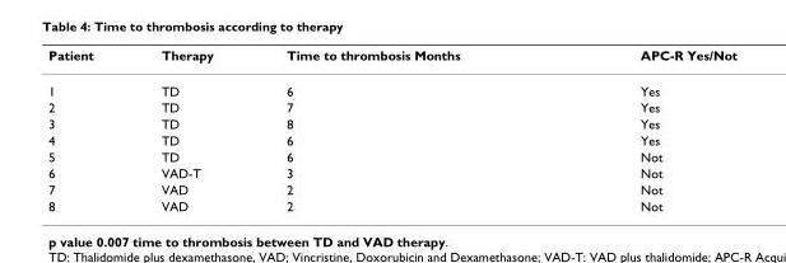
<table><thead><tr><td>Patient</td><td>Therapy</td><td>Time to thrombosis Months</td><td>APC-R Yes/Not</td></tr></thead><tbody><tr><td>1</td><td>TD</td><td>6</td><td>Yes</td></tr><tr><td>2</td><td>TD</td><td>7</td><td>Yes</td></tr><tr><td>3</td><td>TD</td><td>8</td><td>Yes</td></tr><tr><td>4</td><td>TD</td><td>6</td><td>Yes</td></tr><tr><td>5</td><td>TD</td><td>6</td><td>Not</td></tr><tr><td>6</td><td>VAD-T</td><td>3</td><td>Not</td></tr><tr><td>7</td><td>VAD</td><td>2</td><td>Not</td></tr><tr><td>8</td><td>VAD</td><td>2</td><td>Not</td></tr></tbody></table>